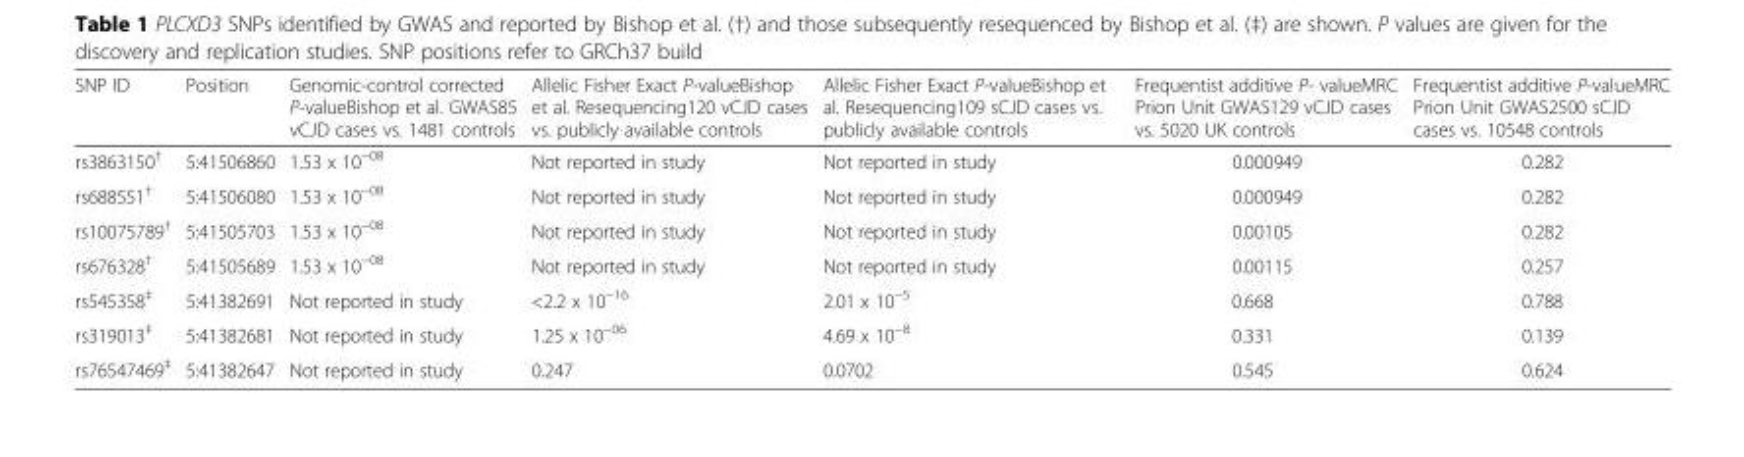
<table><thead><tr><td>SNP ID</td><td>Position</td><td>Genomic-control corrected P-valueBishop et al. GWAS85 vCJD cases vs. 1481 controls</td><td>Allelic Fisher Exact P-valueBishop et al. Resequencing120 vCJD cases vs. publicly available controls</td><td>Allelic Fisher Exact P-valueBishop et al. Resequencing109 sCJD cases vs. publicly available controls</td><td>Frequentist additive P- valueMRC Prion Unit GWAS129 vCJD cases vs. 5020 UK controls</td><td>Frequentist additive P-valueMRC Prion Unit GWAS2500 sCJD cases vs. 10548 controls</td></tr></thead><tbody><tr><td>rs3863150<sup>†</sup></td><td>5:41506860</td><td>1.53 x 10<sup>−08</sup></td><td>Not reported in study</td><td>Not reported in study</td><td>0.000949</td><td>0.282</td></tr><tr><td>rs688551<sup>†</sup></td><td>5:41506080</td><td>1.53 x 10<sup>−08</sup></td><td>Not reported in study</td><td>Not reported in study</td><td>0.000949</td><td>0.282</td></tr><tr><td>rs10075789<sup>†</sup></td><td>5:41505703</td><td>1.53 x 10<sup>−08</sup></td><td>Not reported in study</td><td>Not reported in study</td><td>0.00105</td><td>0.282</td></tr><tr><td>rs676328<sup>†</sup></td><td>5:41505689</td><td>1.53 x 10<sup>−08</sup></td><td>Not reported in study</td><td>Not reported in study</td><td>0.00115</td><td>0.257</td></tr><tr><td>rs545358<sup>‡</sup></td><td>5:41382691</td><td>Not reported in study</td><td>&lt;2.2 x 10<sup>−16</sup></td><td>2.01 x 10<sup>−5</sup></td><td>0.668</td><td>0.788</td></tr><tr><td>rs319013<sup>‡</sup></td><td>5:41382681</td><td>Not reported in study</td><td>1.25 x 10<sup>−06</sup></td><td>4.69 x 10<sup>−8</sup></td><td>0.331</td><td>0.139</td></tr><tr><td>rs76547469<sup>‡</sup></td><td>5:41382647</td><td>Not reported in study</td><td>0.247</td><td>0.0702</td><td>0.545</td><td>0.624</td></tr></tbody></table>